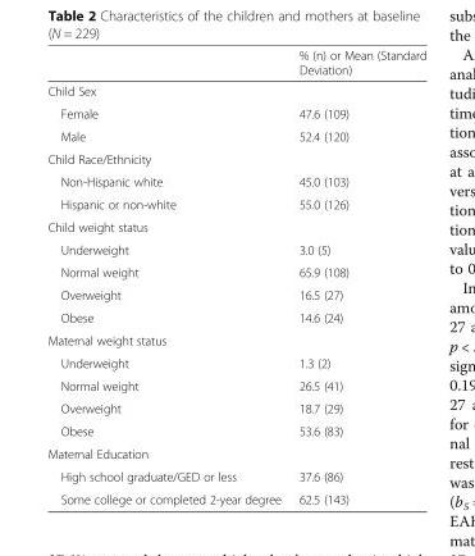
<table><thead><tr><td></td><td>% (n) or Mean (Standard Deviation)</td></tr></thead><tbody><tr><td colspan="2">Child Sex</td></tr><tr><td>Female</td><td>47.6 (109)</td></tr><tr><td>Male</td><td>52.4 (120)</td></tr><tr><td colspan="2">Child Race/Ethnicity</td></tr><tr><td>Non-Hispanic white</td><td>45.0 (103)</td></tr><tr><td>Hispanic or non-white</td><td>55.0 (126)</td></tr><tr><td colspan="2">Child weight status</td></tr><tr><td>Underweight</td><td>3.0 (5)</td></tr><tr><td>Normal weight</td><td>65.9 (108)</td></tr><tr><td>Overweight</td><td>16.5 (27)</td></tr><tr><td>Obese</td><td>14.6 (24)</td></tr><tr><td colspan="2">Maternal weight status</td></tr><tr><td>Underweight</td><td>1.3 (2)</td></tr><tr><td>Normal weight</td><td>26.5 (41)</td></tr><tr><td>Overweight</td><td>18.7 (29)</td></tr><tr><td>Obese</td><td>53.6 (83)</td></tr><tr><td colspan="2">Maternal Education</td></tr><tr><td>High school graduate/GED or less</td><td>37.6 (86)</td></tr><tr><td>Some college or completed 2-year degree</td><td>62.5 (143)</td></tr></tbody></table>